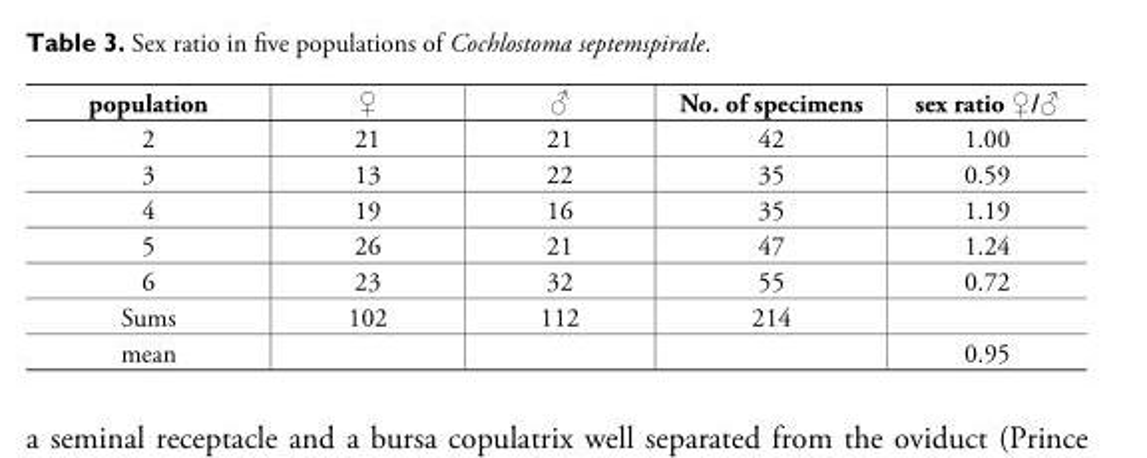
<table><thead><tr><td>population</td><td>♀</td><td>♂</td><td>No. of specimens</td><td>sex ratio ♀/♂</td></tr></thead><tbody><tr><td>2</td><td>21</td><td>21</td><td>42</td><td>1.00</td></tr><tr><td>3</td><td>13</td><td>22</td><td>35</td><td>0.59</td></tr><tr><td>4</td><td>19</td><td>16</td><td>35</td><td>1.19</td></tr><tr><td>5</td><td>26</td><td>21</td><td>47</td><td>1.24</td></tr><tr><td>6</td><td>23</td><td>32</td><td>55</td><td>0.72</td></tr><tr><td>Sums</td><td>102</td><td>112</td><td>214</td><td></td></tr><tr><td>mean</td><td></td><td></td><td></td><td>0.95</td></tr></tbody></table>